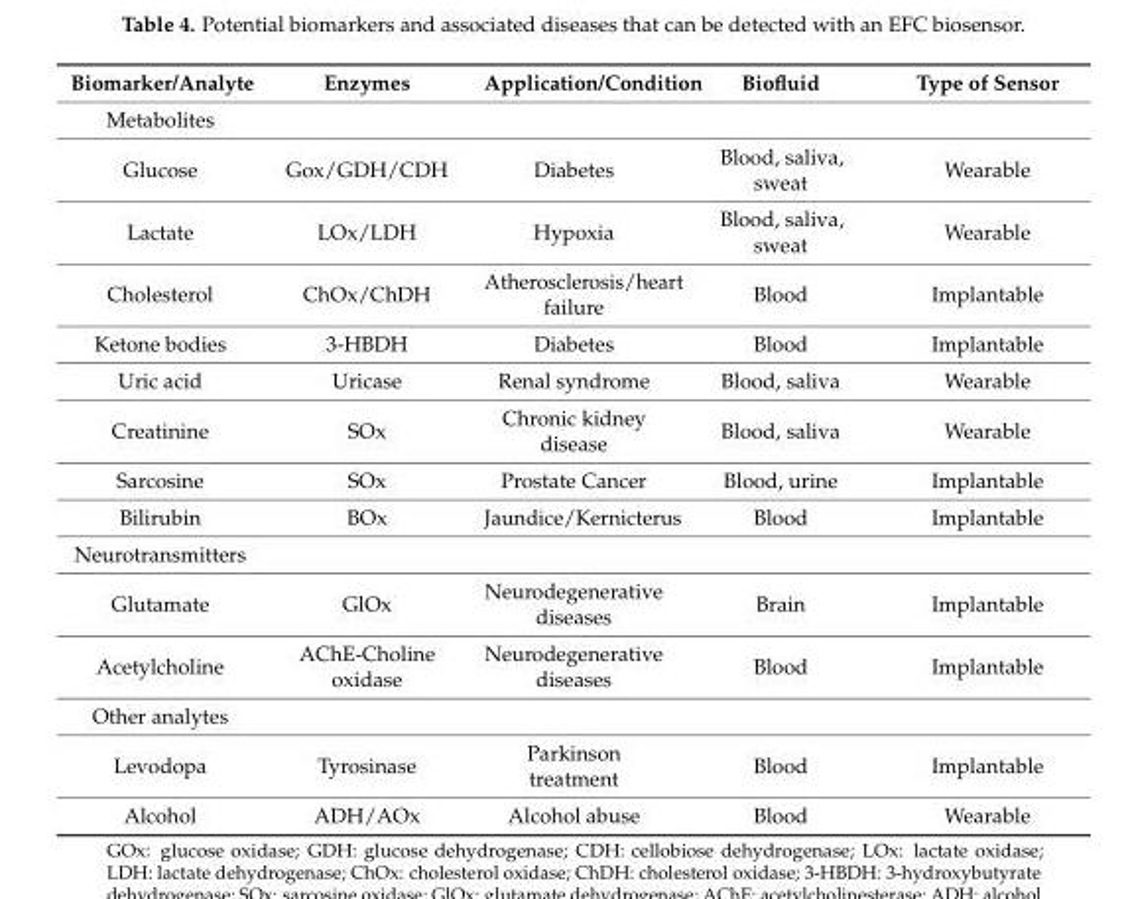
<table><thead><tr><td>Biomarker/Analyte</td><td>Enzymes</td><td>Application/Condition</td><td>Biofluid</td><td>Type of Sensor</td></tr></thead><tbody><tr><td colspan="5">Metabolites</td></tr><tr><td>Glucose</td><td>Gox/GDH/CDH</td><td>Diabetes</td><td>Blood, saliva, sweat</td><td>Wearable</td></tr><tr><td>Lactate</td><td>LOx/LDH</td><td>Hypoxia</td><td>Blood, saliva, sweat</td><td>Wearable</td></tr><tr><td>Cholesterol</td><td>ChOx/ChDH</td><td>Atherosclerosis/heart failure</td><td>Blood</td><td>Implantable</td></tr><tr><td>Ketone bodies</td><td>3-HBDH</td><td>Diabetes</td><td>Blood</td><td>Implantable</td></tr><tr><td>Uric acid</td><td>Uricase</td><td>Renal syndrome</td><td>Blood, saliva</td><td>Wearable</td></tr><tr><td>Creatinine</td><td>SOx</td><td>Chronic kidney disease</td><td>Blood, saliva</td><td>Wearable</td></tr><tr><td>Sarcosine</td><td>SOx</td><td>Prostate Cancer</td><td>Blood, urine</td><td>Implantable</td></tr><tr><td>Bilirubin</td><td>BOx</td><td>Jaundice/Kernicterus</td><td>Blood</td><td>Implantable</td></tr><tr><td colspan="5">Neurotransmitters</td></tr><tr><td>Glutamate</td><td>GlOx</td><td>Neurodegenerative diseases</td><td>Brain</td><td>Implantable</td></tr><tr><td>Acetylcholine</td><td>AChE-Choline oxidase</td><td>Neurodegenerative diseases</td><td>Blood</td><td>Implantable</td></tr><tr><td colspan="5">Other analytes</td></tr><tr><td>Levodopa</td><td>Tyrosinase</td><td>Parkinson treatment</td><td>Blood</td><td>Implantable</td></tr><tr><td>Alcohol</td><td>ADH/AOx</td><td>Alcohol abuse</td><td>Blood</td><td>Wearable</td></tr></tbody></table>